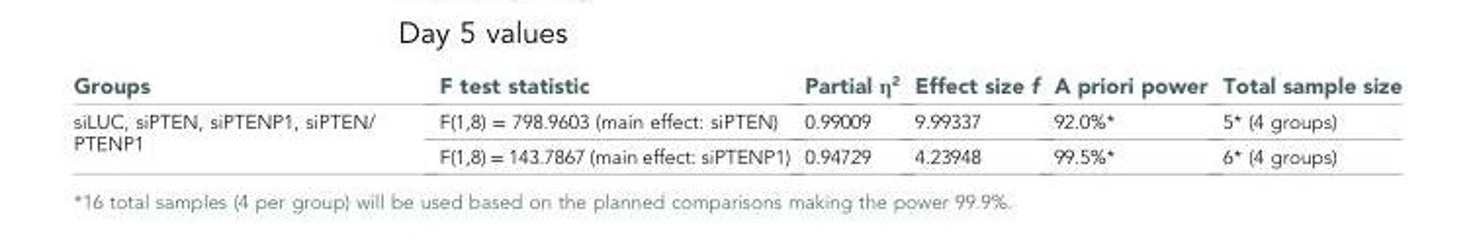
<table><thead><tr><td>Groups</td><td>F test statistic</td><td>Partial η<sup>2</sup></td><td>Effect size f</td><td>A priori power</td><td>Total sample size</td></tr></thead><tbody><tr><td rowspan="2">siLUC, siPTEN, siPTENP1, siPTEN/ PTENP1</td><td>F(1,8) = 798.9603 (main effect: siPTEN)</td><td>0.99009</td><td>9.99337</td><td>92.0%*</td><td>5* (4 groups)</td></tr><tr><td>F(1,8) = 143.7867 (main effect: siPTENP1)</td><td>0.94729</td><td>4.23948</td><td>99.5%*</td><td>6* (4 groups)</td></tr></tbody></table>